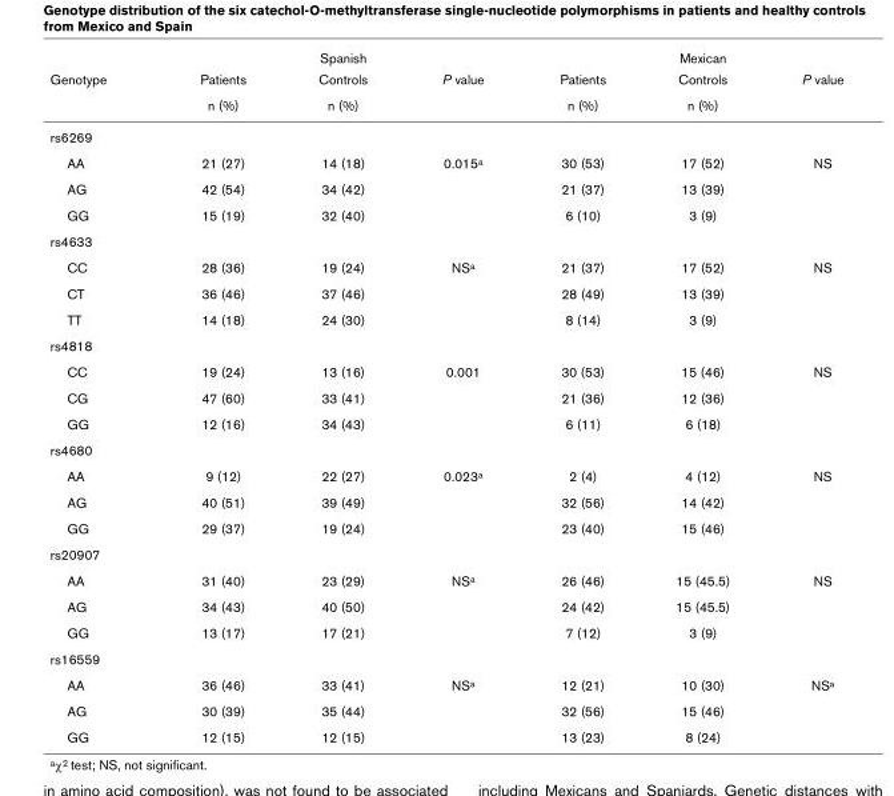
<table><thead><tr><td rowspan="3">Genotype</td><td colspan="3">Spanish</td><td colspan="3">Mexican</td></tr><tr><td rowspan="2">Patients n (%)</td><td rowspan="2">Controls n (%)</td><td rowspan="2">P value</td><td rowspan="2">Patients n (%)</td><td rowspan="2">Controls n (%)</td><td rowspan="2">P value</td></tr><tr></tr></thead><tbody><tr><td colspan="7">rs6269</td></tr><tr><td>AA</td><td>21 (27)</td><td>14 (18)</td><td>0.015<sup>a</sup></td><td>30 (53)</td><td>17 (52)</td><td>NS</td></tr><tr><td>AG</td><td>42 (54)</td><td>34 (42)</td><td></td><td>21 (37)</td><td>13 (39)</td><td></td></tr><tr><td>GG</td><td>15 (19)</td><td>32 (40)</td><td></td><td>6 (10)</td><td>3 (9)</td><td></td></tr><tr><td colspan="7">rs4633</td></tr><tr><td>CC</td><td>28 (36)</td><td>19 (24)</td><td>NS<sup>a</sup></td><td>21 (37)</td><td>17 (52)</td><td>NS</td></tr><tr><td>CT</td><td>36 (46)</td><td>37 (46)</td><td></td><td>28 (49)</td><td>13 (39)</td><td></td></tr><tr><td>TT</td><td>14 (18)</td><td>24 (30)</td><td></td><td>8 (14)</td><td>3 (9)</td><td></td></tr><tr><td colspan="7">rs4818</td></tr><tr><td>CC</td><td>19 (24)</td><td>13 (16)</td><td>0.001</td><td>30 (53)</td><td>15 (46)</td><td>NS</td></tr><tr><td>CG</td><td>47 (60)</td><td>33 (41)</td><td></td><td>21 (36)</td><td>12 (36)</td><td></td></tr><tr><td>GG</td><td>12 (16)</td><td>34 (43)</td><td></td><td>6 (11)</td><td>6 (18)</td><td></td></tr><tr><td colspan="7">rs4680</td></tr><tr><td>AA</td><td>9 (12)</td><td>22 (27)</td><td>0.023<sup>a</sup></td><td>2 (4)</td><td>4 (12)</td><td>NS</td></tr><tr><td>AG</td><td>40 (51)</td><td>39 (49)</td><td></td><td>32 (56)</td><td>14 (42)</td><td></td></tr><tr><td>GG</td><td>29 (37)</td><td>19 (24)</td><td></td><td>23 (40)</td><td>15 (46)</td><td></td></tr><tr><td colspan="7">rs20907</td></tr><tr><td>AA</td><td>31 (40)</td><td>23 (29)</td><td>NS<sup>a</sup></td><td>26 (46)</td><td>15 (45.5)</td><td>NS</td></tr><tr><td>AG</td><td>34 (43)</td><td>40 (50)</td><td></td><td>24 (42)</td><td>15 (45.5)</td><td></td></tr><tr><td>GG</td><td>13 (17)</td><td>17 (21)</td><td></td><td>7 (12)</td><td>3 (9)</td><td></td></tr><tr><td colspan="7">rs16559</td></tr><tr><td>AA</td><td>36 (46)</td><td>33 (41)</td><td>NS<sup>a</sup></td><td>12 (21)</td><td>10 (30)</td><td>NS<sup>a</sup></td></tr><tr><td>AG</td><td>30 (39)</td><td>35 (44)</td><td></td><td>32 (56)</td><td>15 (46)</td><td></td></tr><tr><td>GG</td><td>12 (15)</td><td>12 (15)</td><td></td><td>13 (23)</td><td>8 (24)</td><td></td></tr></tbody></table>